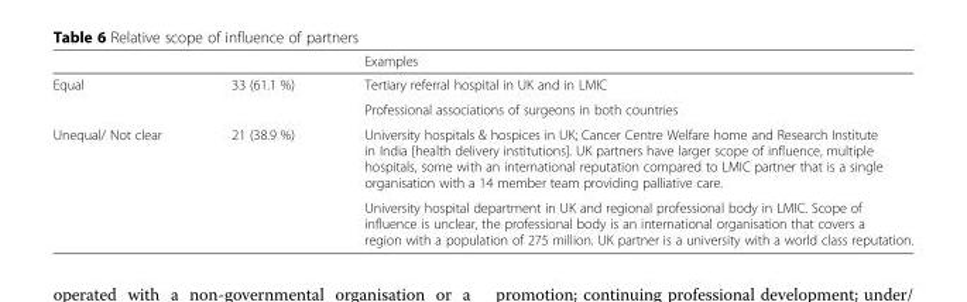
<table><thead><tr><td></td><td></td><td>Examples</td></tr></thead><tbody><tr><td rowspan="2">Equal</td><td rowspan="2">33 (61.1 %)</td><td>Tertiary referral hospital in UK and in LMIC</td></tr><tr><td>Professional associations of surgeons in both countries</td></tr><tr><td rowspan="2">Unequal/ Not clear</td><td rowspan="2">21 (38.9 %)</td><td>University hospitals &amp; hospices in UK; Cancer Centre Welfare home and Research Institute in India [health delivery institutions]. UK partners have larger scope of influence, multiple hospitals, some with an international reputation compared to LMIC partner that is a single organisation with a 14 member team providing palliative care.</td></tr><tr><td>University hospital department in UK and regional professional body in LMIC. Scope of influence is unclear, the professional body is an international organisation that covers a region with a population of 275 million. UK partner is a university with a world class reputation.</td></tr></tbody></table>